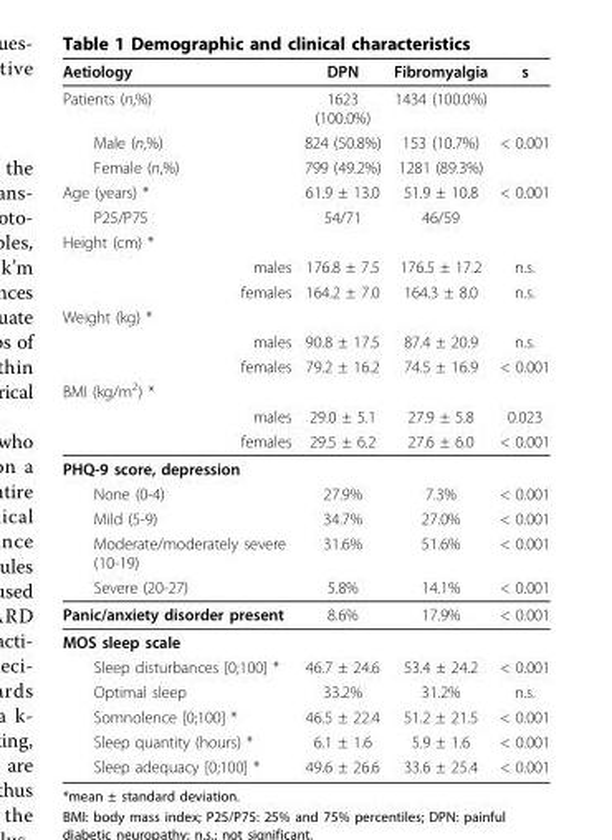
<table><thead><tr><td>Aetiology</td><td>DPN</td><td>Fibromyalgia</td><td>s</td></tr></thead><tbody><tr><td>Patients (n,%)</td><td>1623 (100.0%)</td><td>1434 (100.0%)</td><td></td></tr><tr><td>Male (n,%)</td><td>824 (50.8%)</td><td>153 (10.7%)</td><td>&lt; 0.001</td></tr><tr><td>Female (n,%)</td><td>799 (49.2%)</td><td>1281 (89.3%)</td><td></td></tr><tr><td>Age (years) *</td><td>61.9 ± 13.0</td><td>51.9 ± 10.8</td><td>&lt; 0.001</td></tr><tr><td>P25/P75</td><td>54/71</td><td>46/59</td><td></td></tr><tr><td colspan="4">Height (cm) *</td></tr><tr><td>males</td><td>176.8 ± 7.5</td><td>176.5 ± 17.2</td><td>n.s.</td></tr><tr><td>females</td><td>164.2 ± 7.0</td><td>164.3 ± 8.0</td><td>n.s.</td></tr><tr><td colspan="4">Weight (kg) *</td></tr><tr><td>males</td><td>90.8 ± 17.5</td><td>87.4 ± 20.9</td><td>n.s.</td></tr><tr><td>females</td><td>79.2 ± 16.2</td><td>74.5 ± 16.9</td><td>&lt; 0.001</td></tr><tr><td colspan="4">BMI (kg/m<sup>2</sup>) *</td></tr><tr><td>males</td><td>29.0 ± 5.1</td><td>27.9 ± 5.8</td><td>0.023</td></tr><tr><td>females</td><td>29.5 ± 6.2</td><td>27.6 ± 6.0</td><td>&lt; 0.001</td></tr><tr><td colspan="4">PHQ-9 score, depression</td></tr><tr><td>None (0-4)</td><td>27.9%</td><td>7.3%</td><td>&lt; 0.001</td></tr><tr><td>Mild (5-9)</td><td>34.7%</td><td>27.0%</td><td>&lt; 0.001</td></tr><tr><td>Moderate/moderately severe (10-19)</td><td>31.6%</td><td>51.6%</td><td>&lt; 0.001</td></tr><tr><td>Severe (20-27)</td><td>5.8%</td><td>14.1%</td><td>&lt; 0.001</td></tr><tr><td>Panic/anxiety disorder present</td><td>8.6%</td><td>17.9%</td><td>&lt; 0.001</td></tr><tr><td colspan="4">MOS sleep scale</td></tr><tr><td>Sleep disturbances [0;100] *</td><td>46.7 ± 24.6</td><td>53.4 ± 24.2</td><td>&lt; 0.001</td></tr><tr><td>Optimal sleep</td><td>33.2%</td><td>31.2%</td><td>n.s.</td></tr><tr><td>Somnolence [0;100] *</td><td>46.5 ± 22.4</td><td>51.2 ± 21.5</td><td>&lt; 0.001</td></tr><tr><td>Sleep quantity (hours) *</td><td>6.1 ± 1.6</td><td>5.9 ± 1.6</td><td>&lt; 0.001</td></tr><tr><td>Sleep adequacy [0;100] *</td><td>49.6 ± 26.6</td><td>33.6 ± 25.4</td><td>&lt; 0.001</td></tr></tbody></table>